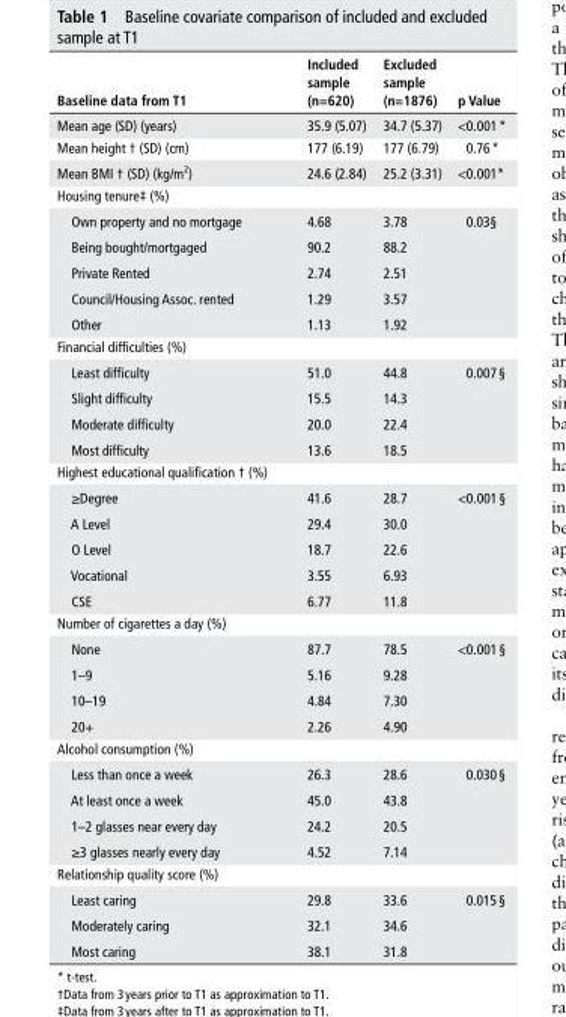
<table><thead><tr><td>baseline data from t1</td><td>Included sample (n=620)</td><td>excluded sample (n=1876)</td><td>p Value</td></tr></thead><tbody><tr><td>Mean age (SD) (years)</td><td>35.9 (5.07)</td><td>34.7 (5.37)</td><td>&lt;0.001 *</td></tr><tr><td>Mean height † (SD) (cm)</td><td>177 (6.19)</td><td>177 (6.79)</td><td>0.76 *</td></tr><tr><td>Mean BMI † (SD) (kg/m<sup>2</sup>)</td><td>24.6 (2.84)</td><td>25.2 (3.31)</td><td>&lt;0.001*</td></tr><tr><td colspan="4">Housing tenure‡ (%)</td></tr><tr><td>Own property and no mortgage</td><td>4.68</td><td>3.78</td><td rowspan="5">0.03§</td></tr><tr><td>Being bought/mortgaged</td><td>90.2</td><td>88.2</td></tr><tr><td>Private Rented</td><td>2.74</td><td>2.51</td></tr><tr><td>Council/Housing Assoc. rented</td><td>1.29</td><td>3.57</td></tr><tr><td>Other</td><td>1.13</td><td>1.92</td></tr><tr><td colspan="4">Financial difficulties (%)</td></tr><tr><td>Least difficulty</td><td>51.0</td><td>44.8</td><td rowspan="4">0.007 §</td></tr><tr><td>Slight difficulty</td><td>15.5</td><td>14.3</td></tr><tr><td>Moderate difficulty</td><td>20.0</td><td>22.4</td></tr><tr><td>Most difficulty</td><td>13.6</td><td>18.5</td></tr><tr><td colspan="4">Highest educational qualification † (%)</td></tr><tr><td>≥Degree</td><td>41.6</td><td>28.7</td><td rowspan="5">&lt;0.001 §</td></tr><tr><td>A Level</td><td>29.4</td><td>30.0</td></tr><tr><td>O Level</td><td>18.7</td><td>22.6</td></tr><tr><td>Vocational</td><td>3.55</td><td>6.93</td></tr><tr><td>CSE</td><td>6.77</td><td>11.8</td></tr><tr><td colspan="4">Number of cigarettes a day (%)</td></tr><tr><td>None</td><td>87.7</td><td>78.5</td><td rowspan="4">&lt;0.001 §</td></tr><tr><td>1–9</td><td>5.16</td><td>9.28</td></tr><tr><td>10–19</td><td>4.84</td><td>7.30</td></tr><tr><td>20+</td><td>2.26</td><td>4.90</td></tr><tr><td colspan="4">Alcohol consumption (%)</td></tr><tr><td>Less than once a week</td><td>26.3</td><td>28.6</td><td rowspan="4">0.030 §</td></tr><tr><td>At least once a week</td><td>45.0</td><td>43.8</td></tr><tr><td>1–2 glasses near every day</td><td>24.2</td><td>20.5</td></tr><tr><td>≥3 glasses nearly every day</td><td>4.52</td><td>7.14</td></tr><tr><td colspan="4">Relationship quality score (%)</td></tr><tr><td>Least caring</td><td>29.8</td><td>33.6</td><td rowspan="3">0.015 §</td></tr><tr><td>Moderately caring</td><td>32.1</td><td>34.6</td></tr><tr><td>Most caring</td><td>38.1</td><td>31.8</td></tr></tbody></table>